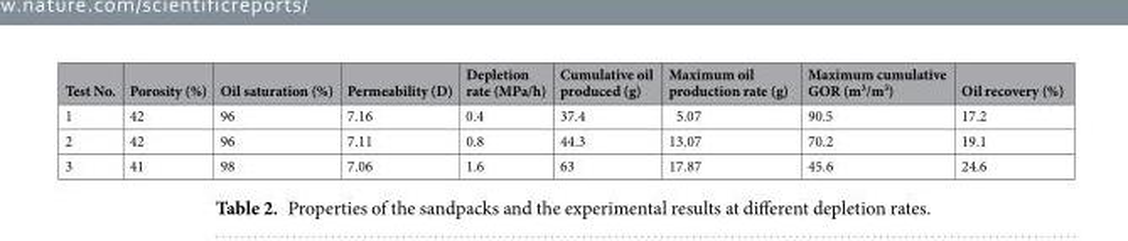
<table><thead><tr><td>Test No.</td><td>Porosity (%)</td><td>Oil saturation (%)</td><td>Permeability (D)</td><td>Depletion rate (MPa/h)</td><td>Cumulative oil produced (g)</td><td>Maximum oil production rate (g)</td><td>Maximum cumulative GOR (m<sup>3</sup>/m<sup>3</sup>)</td><td>Oil recovery (%)</td></tr></thead><tbody><tr><td>1</td><td>42</td><td>96</td><td>7.16</td><td>0.4</td><td>37.4</td><td>5.07</td><td>90.5</td><td>17.2</td></tr><tr><td>2</td><td>42</td><td>96</td><td>7.11</td><td>0.8</td><td>44.3</td><td>13.07</td><td>70.2</td><td>19.1</td></tr><tr><td>3</td><td>41</td><td>98</td><td>7.06</td><td>1.6</td><td>63</td><td>17.87</td><td>45.6</td><td>24.6</td></tr></tbody></table>